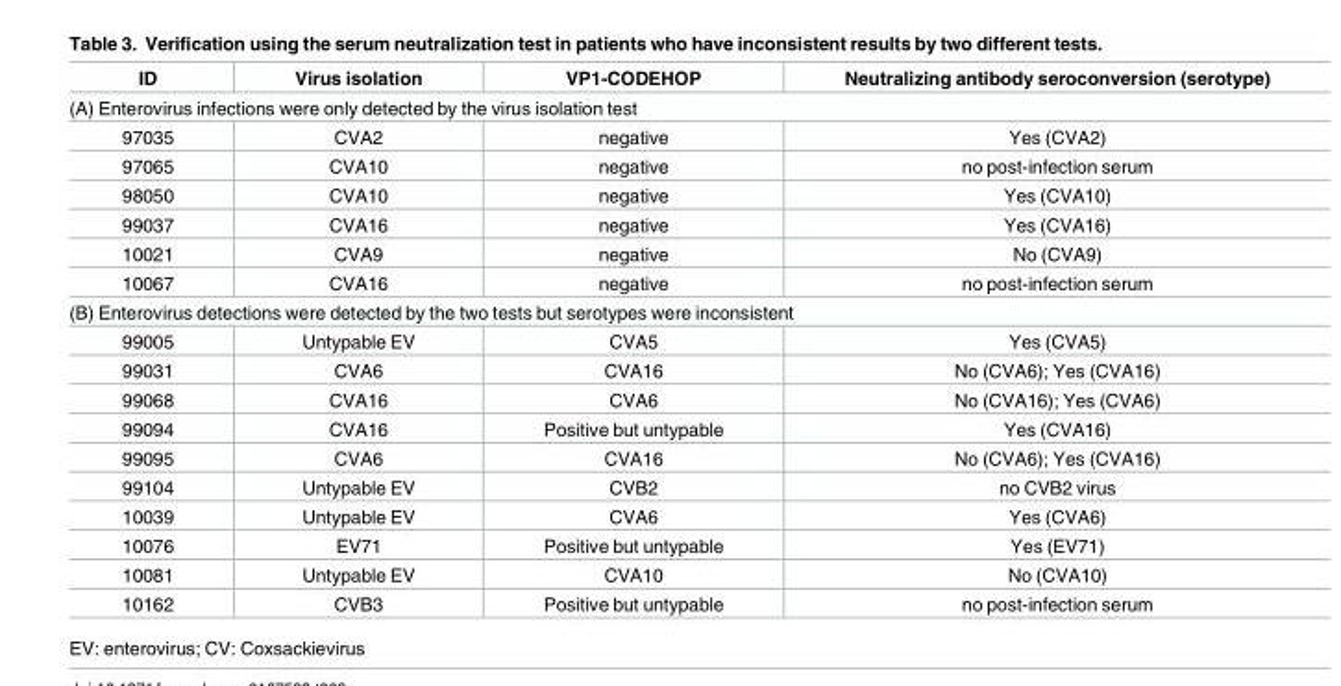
<table><thead><tr><td>ID</td><td>Virus isolation</td><td>VP1-CODEHOP</td><td>Neutralizing antibody seroconversion (serotype)</td></tr></thead><tbody><tr><td colspan="4">(A) Enterovirus infections were only detected by the virus isolation test</td></tr><tr><td>97035</td><td>CVA2</td><td>negative</td><td>Yes (CVA2)</td></tr><tr><td>97065</td><td>CVA10</td><td>negative</td><td>no post-infection serum</td></tr><tr><td>98050</td><td>CVA10</td><td>negative</td><td>Yes (CVA10)</td></tr><tr><td>99037</td><td>CVA16</td><td>negative</td><td>Yes (CVA16)</td></tr><tr><td>10021</td><td>CVA9</td><td>negative</td><td>No (CVA9)</td></tr><tr><td>10067</td><td>CVA16</td><td>negative</td><td>no post-infection serum</td></tr><tr><td colspan="4">(B) Enterovirus detections were detected by the two tests but serotypes were inconsistent</td></tr><tr><td>99005</td><td>Untypable EV</td><td>CVA5</td><td>Yes (CVA5)</td></tr><tr><td>99031</td><td>CVA6</td><td>CVA16</td><td>No (CVA6); Yes (CVA16)</td></tr><tr><td>99068</td><td>CVA16</td><td>CVA6</td><td>No (CVA16); Yes (CVA6)</td></tr><tr><td>99094</td><td>CVA16</td><td>Positive but untypable</td><td>Yes (CVA16)</td></tr><tr><td>99095</td><td>CVA6</td><td>CVA16</td><td>No (CVA6); Yes (CVA16)</td></tr><tr><td>99104</td><td>Untypable EV</td><td>CVB2</td><td>no CVB2 virus</td></tr><tr><td>10039</td><td>Untypable EV</td><td>CVA6</td><td>Yes (CVA6)</td></tr><tr><td>10076</td><td>EV71</td><td>Positive but untypable</td><td>Yes (EV71)</td></tr><tr><td>10081</td><td>Untypable EV</td><td>CVA10</td><td>No (CVA10)</td></tr><tr><td>10162</td><td>CVB3</td><td>Positive but untypable</td><td>no post-infection serum</td></tr></tbody></table>